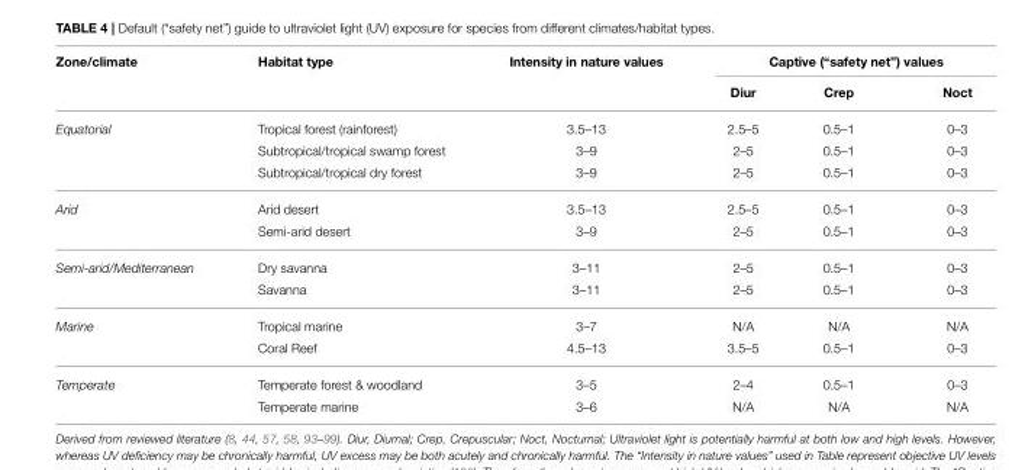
<table><thead><tr><td rowspan="2">Zone/climate</td><td rowspan="2">Habitat type</td><td rowspan="2">Intensity in nature values</td><td colspan="3">Captive (“safety net”) values</td></tr><tr><td>Diur</td><td>Crep</td><td>Noct</td></tr></thead><tbody><tr><td rowspan="3">Equatorial</td><td>Tropical forest (rainforest)</td><td>3.5–13</td><td>2.5–5</td><td>0.5–1</td><td>0–3</td></tr><tr><td>Subtropical/tropical swamp forest</td><td>3–9</td><td>2–5</td><td>0.5–1</td><td>0–3</td></tr><tr><td>Subtropical/tropical dry forest</td><td>3–9</td><td>2–5</td><td>0.5–1</td><td>0–3</td></tr><tr><td rowspan="2">Arid</td><td>Arid desert</td><td>3.5–13</td><td>2.5–5</td><td>0.5–1</td><td>0–3</td></tr><tr><td>Semi-arid desert</td><td>3–9</td><td>2–5</td><td>0.5–1</td><td>0–3</td></tr><tr><td rowspan="2">Semi-arid/Mediterranean</td><td>Dry savanna</td><td>3–11</td><td>2–5</td><td>0.5–1</td><td>0–3</td></tr><tr><td>Savanna</td><td>3–11</td><td>2–5</td><td>0.5–1</td><td>0–3</td></tr><tr><td rowspan="2">Marine</td><td>Tropical marine</td><td>3–7</td><td>N/A</td><td>N/A</td><td>N/A</td></tr><tr><td>Coral Reef</td><td>4.5–13</td><td>3.5–5</td><td>0.5–1</td><td>0–3</td></tr><tr><td rowspan="2">Temperate</td><td>Temperate forest &amp; woodland</td><td>3–5</td><td>2–4</td><td>0.5–1</td><td>0–3</td></tr><tr><td>Temperate marine</td><td>3–6</td><td>N/A</td><td>N/A</td><td>N/A</td></tr></tbody></table>